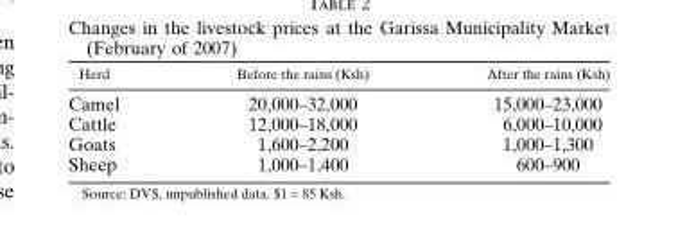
<table><thead><tr><td>Herd</td><td>Before the rains (Ksh)</td><td>After the rains (Ksh)</td></tr></thead><tbody><tr><td>Camel</td><td>20,000–32,000</td><td>15,000–23,000</td></tr><tr><td>Cattle</td><td>12,000–18,000</td><td>6,000–10,000</td></tr><tr><td>Goats</td><td>1,600–2,200</td><td>1,000–1,300</td></tr><tr><td>Sheep</td><td>1,000–1,400</td><td>600–900</td></tr></tbody></table>